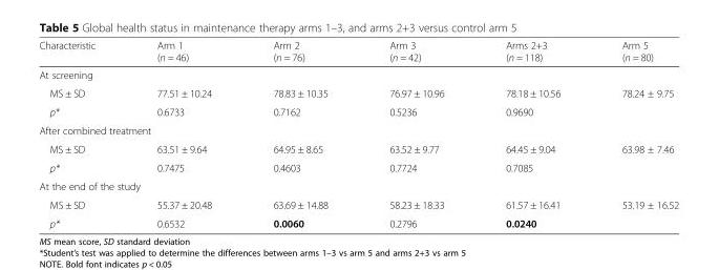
<table><thead><tr><td>Characteristic</td><td>Arm 1 (n = 46)</td><td>Arm 2 (n = 76)</td><td>Arm 3 (n = 42)</td><td>Arms 2+3 (n = 118)</td><td>Arm 5 (n = 80)</td></tr></thead><tbody><tr><td colspan="6">At screening</td></tr><tr><td>MS ± SD</td><td>77.51 ± 10.24</td><td>78.83 ± 10.35</td><td>76.97 ± 10.96</td><td>78.18 ± 10.56</td><td>78.24 ± 9.75</td></tr><tr><td>p*</td><td>0.6733</td><td>0.7162</td><td>0.5236</td><td>0.9690</td><td></td></tr><tr><td colspan="6">After combined treatment</td></tr><tr><td>MS ± SD</td><td>63.51 ± 9.64</td><td>64.95 ± 8.65</td><td>63.52 ± 9.77</td><td>64.45 ± 9.04</td><td>63.98 ± 7.46</td></tr><tr><td>p*</td><td>0.7475</td><td>0.4603</td><td>0.7724</td><td>0.7085</td><td></td></tr><tr><td colspan="6">At the end of the study</td></tr><tr><td>MS ± SD</td><td>55.37 ± 20.48</td><td>63.69 ± 14.88</td><td>58.23 ± 18.33</td><td>61.57 ± 16.41</td><td>53.19 ± 16.52</td></tr><tr><td>p*</td><td>0.6532</td><td>0.0060</td><td>0.2796</td><td>0.0240</td><td></td></tr></tbody></table>